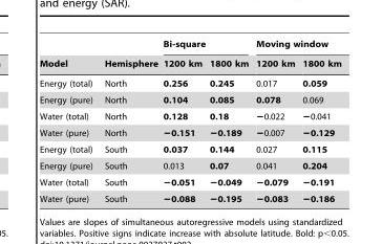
<table><thead><tr><td rowspan="2">Model</td><td rowspan="2">Hemisphere</td><td colspan="2">Bi-square</td><td colspan="2">Moving window</td></tr><tr><td>1200 km</td><td>1800 km</td><td>1200 km</td><td>1800 km</td></tr></thead><tbody><tr><td>Energy (total)</td><td>North</td><td>0.256</td><td>0.245</td><td>0.017</td><td>0.059</td></tr><tr><td>Energy (pure)</td><td>North</td><td>0.104</td><td>0.085</td><td>0.078</td><td>0.069</td></tr><tr><td>Water (total)</td><td>North</td><td>0.128</td><td>0.18</td><td>−0.022</td><td>−0.041</td></tr><tr><td>Water (pure)</td><td>North</td><td>−0.151</td><td>−0.189</td><td>−0.007</td><td>−0.129</td></tr><tr><td>Energy (total)</td><td>South</td><td>0.037</td><td>0.144</td><td>0.027</td><td>0.115</td></tr><tr><td>Energy (pure)</td><td>South</td><td>0.013</td><td>0.07</td><td>0.041</td><td>0.204</td></tr><tr><td>Water (total)</td><td>South</td><td>−0.051</td><td>−0.049</td><td>−0.079</td><td>−0.191</td></tr><tr><td>Water (pure)</td><td>South</td><td>−0.088</td><td>−0.195</td><td>−0.083</td><td>−0.186</td></tr></tbody></table>